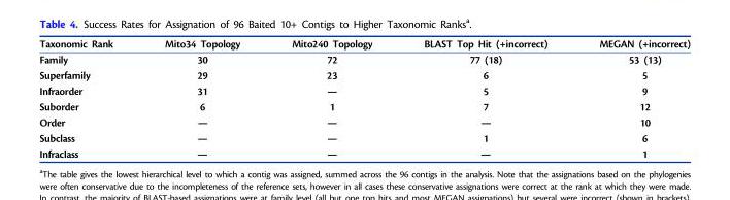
<table><thead><tr><td>Taxonomic Rank</td><td>Mito34 Topology</td><td>Mito240 Topology</td><td>BLAST Top Hit (+incorrect)</td><td>MEGAN (+incorrect)</td></tr></thead><tbody><tr><td>Family</td><td>30</td><td>72</td><td>77 (18)</td><td>53 (13)</td></tr><tr><td>Superfamily</td><td>29</td><td>23</td><td>6</td><td>5</td></tr><tr><td>Infraorder</td><td>31</td><td>—</td><td>5</td><td>9</td></tr><tr><td>Suborder</td><td>6</td><td>1</td><td>7</td><td>12</td></tr><tr><td>Order</td><td>—</td><td>—</td><td>—</td><td>10</td></tr><tr><td>Subclass</td><td>—</td><td>—</td><td>1</td><td>6</td></tr><tr><td>Infraclass</td><td>—</td><td>—</td><td>—</td><td>1</td></tr></tbody></table>